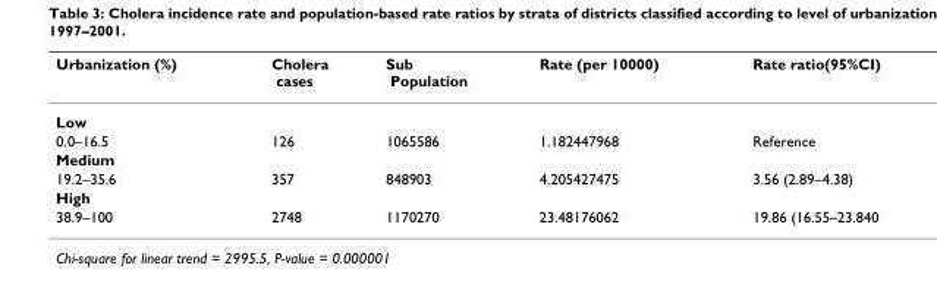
<table><thead><tr><td>Urbanization (%)</td><td>Cholera cases</td><td>Sub Population</td><td>Rate (per 10000)</td><td>Rate ratio(95%CI)</td></tr></thead><tbody><tr><td colspan="5">Low</td></tr><tr><td>0.0–16.5</td><td>126</td><td>1065586</td><td>1.182447968</td><td>Reference</td></tr><tr><td colspan="5">Medium</td></tr><tr><td>19.2–35.6</td><td>357</td><td>848903</td><td>4.205427475</td><td>3.56 (2.89–4.38)</td></tr><tr><td colspan="5">High</td></tr><tr><td>38.9–100</td><td>2748</td><td>1170270</td><td>23.48176062</td><td>19.86 (16.55–23.840</td></tr></tbody></table>